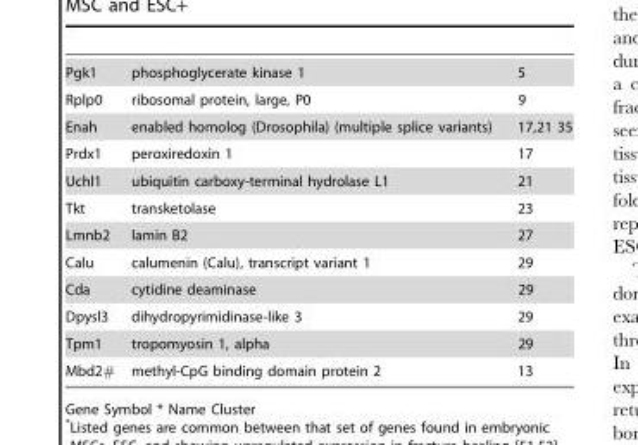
<table><tbody><tr><td>Pgk1</td><td>phosphoglycerate kinase 1</td><td>5</td></tr><tr><td>Rplp0</td><td>ribosomal protein, large, P0</td><td>9</td></tr><tr><td>Enah</td><td>enabled homolog (Drosophila) (multiple splice variants)</td><td>17,21 35</td></tr><tr><td>Prdx1</td><td>peroxiredoxin 1</td><td>17</td></tr><tr><td>Uchl1</td><td>ubiquitin carboxy-terminal hydrolase L1</td><td>21</td></tr><tr><td>Tkt</td><td>transketolase</td><td>23</td></tr><tr><td>Lmnb2</td><td>lamin B2</td><td>27</td></tr><tr><td>Calu</td><td>calumenin (Calu), transcript variant 1</td><td>29</td></tr><tr><td>Cda</td><td>cytidine deaminase</td><td>29</td></tr><tr><td>Dpysl3</td><td>dihydropyrimidinase-like 3</td><td>29</td></tr><tr><td>Tpm1</td><td>tropomyosin 1, alpha</td><td>29</td></tr><tr><td>Mbd2#</td><td>methyl-CpG binding domain protein 2</td><td>13</td></tr></tbody></table>